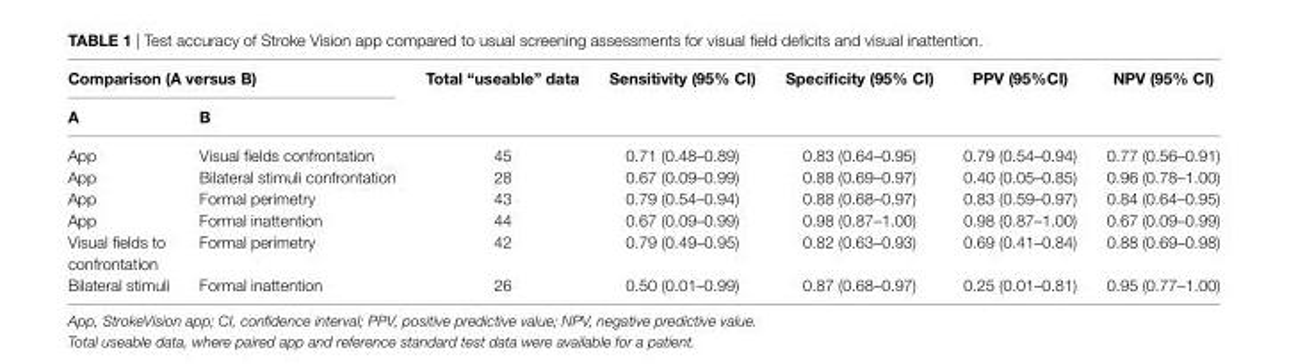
<table><thead><tr><td colspan="2">Comparison (a versus B)</td><td rowspan="2">Total “useable” data</td><td rowspan="2">Sensitivity (95% Ci)</td><td rowspan="2">Specificity (95% Ci)</td><td rowspan="2">PPV (95%Ci)</td><td rowspan="2">nPV (95% Ci)</td></tr><tr><td>a</td><td>B</td></tr></thead><tbody><tr><td>App</td><td>Visual fields confrontation</td><td>45</td><td>0.71 (0.48–0.89)</td><td>0.83 (0.64–0.95)</td><td>0.79 (0.54–0.94)</td><td>0.77 (0.56–0.91)</td></tr><tr><td>App</td><td>Bilateral stimuli confrontation</td><td>28</td><td>0.67 (0.09–0.99)</td><td>0.88 (0.69–0.97)</td><td>0.40 (0.05–0.85)</td><td>0.96 (0.78–1.00)</td></tr><tr><td>App</td><td>Formal perimetry</td><td>43</td><td>0.79 (0.54–0.94)</td><td>0.88 (0.68–0.97)</td><td>0.83 (0.59–0.97)</td><td>0.84 (0.64–0.95)</td></tr><tr><td>App</td><td>Formal inattention</td><td>44</td><td>0.67 (0.09–0.99)</td><td>0.98 (0.87–1.00)</td><td>0.98 (0.87–1.00)</td><td>0.67 (0.09–0.99)</td></tr><tr><td>Visual fields to confrontation</td><td>Formal perimetry</td><td>42</td><td>0.79 (0.49–0.95)</td><td>0.82 (0.63–0.93)</td><td>0.69 (0.41–0.84)</td><td>0.88 (0.69–0.98)</td></tr><tr><td>Bilateral stimuli</td><td>Formal inattention</td><td>26</td><td>0.50 (0.01–0.99)</td><td>0.87 (0.68–0.97)</td><td>0.25 (0.01–0.81)</td><td>0.95 (0.77–1.00)</td></tr></tbody></table>